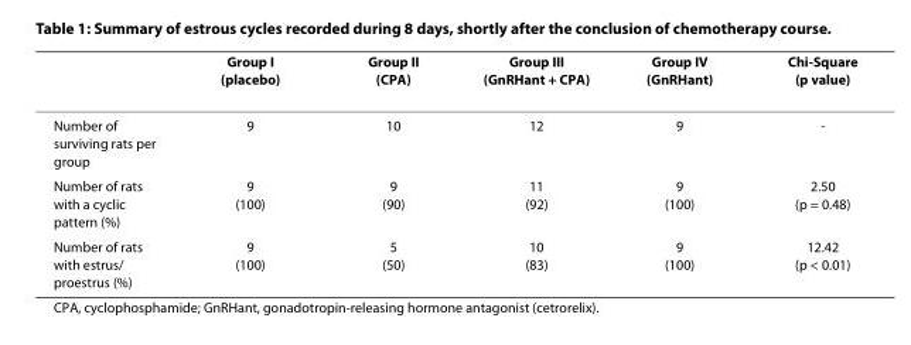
<table><thead><tr><td></td><td>Group I (placebo)</td><td>Group II (CPA)</td><td>Group III (GnRHant + CPA)</td><td>Group IV (GnRHant)</td><td>Chi-Square (p value)</td></tr></thead><tbody><tr><td>Number of surviving rats per group</td><td>9</td><td>10</td><td>12</td><td>9</td><td>-</td></tr><tr><td>Number of rats with a cyclic pattern (%)</td><td>9 (100)</td><td>9 (90)</td><td>11 (92)</td><td>9 (100)</td><td>2.50 (p = 0.48)</td></tr><tr><td>Number of rats with estrus/ proestrus (%)</td><td>9 (100)</td><td>5 (50)</td><td>10 (83)</td><td>9 (100)</td><td>12.42 (p &lt; 0.01)</td></tr></tbody></table>